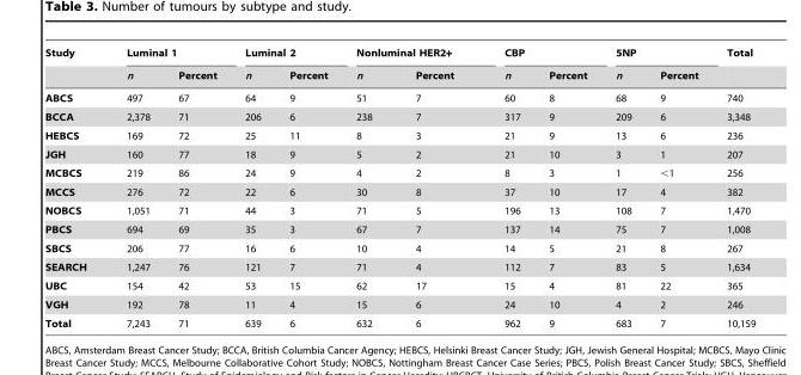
<table><thead><tr><td rowspan="2">Study</td><td colspan="2">Luminal 1</td><td colspan="2">Luminal 2</td><td colspan="2">Nonluminal HER2+</td><td colspan="2">CBP</td><td colspan="2">5NP</td><td rowspan="2">Total</td></tr><tr><td>n</td><td>Percent</td><td>n</td><td>Percent</td><td>n</td><td>Percent</td><td>n</td><td>Percent</td><td>n</td><td>Percent</td></tr></thead><tbody><tr><td>ABCS</td><td>497</td><td>67</td><td>64</td><td>9</td><td>51</td><td>7</td><td>60</td><td>8</td><td>68</td><td>9</td><td>740</td></tr><tr><td>BCCA</td><td>2,378</td><td>71</td><td>206</td><td>6</td><td>238</td><td>7</td><td>317</td><td>9</td><td>209</td><td>6</td><td>3,348</td></tr><tr><td>HEBCS</td><td>169</td><td>72</td><td>25</td><td>11</td><td>8</td><td>3</td><td>21</td><td>9</td><td>13</td><td>6</td><td>236</td></tr><tr><td>JGH</td><td>160</td><td>77</td><td>18</td><td>9</td><td>5</td><td>2</td><td>21</td><td>10</td><td>3</td><td>1</td><td>207</td></tr><tr><td>MCBCS</td><td>219</td><td>86</td><td>24</td><td>9</td><td>4</td><td>2</td><td>8</td><td>3</td><td>1</td><td>&lt;1</td><td>256</td></tr><tr><td>MCCS</td><td>276</td><td>72</td><td>22</td><td>6</td><td>30</td><td>8</td><td>37</td><td>10</td><td>17</td><td>4</td><td>382</td></tr><tr><td>NOBCS</td><td>1,051</td><td>71</td><td>44</td><td>3</td><td>71</td><td>5</td><td>196</td><td>13</td><td>108</td><td>7</td><td>1,470</td></tr><tr><td>PBCS</td><td>694</td><td>69</td><td>35</td><td>3</td><td>67</td><td>7</td><td>137</td><td>14</td><td>75</td><td>7</td><td>1,008</td></tr><tr><td>SBCS</td><td>206</td><td>77</td><td>16</td><td>6</td><td>10</td><td>4</td><td>14</td><td>5</td><td>21</td><td>8</td><td>267</td></tr><tr><td>SEARCH</td><td>1,247</td><td>76</td><td>121</td><td>7</td><td>71</td><td>4</td><td>112</td><td>7</td><td>83</td><td>5</td><td>1,634</td></tr><tr><td>UBC</td><td>154</td><td>42</td><td>53</td><td>15</td><td>62</td><td>17</td><td>15</td><td>4</td><td>81</td><td>22</td><td>365</td></tr><tr><td>VGH</td><td>192</td><td>78</td><td>11</td><td>4</td><td>15</td><td>6</td><td>24</td><td>10</td><td>4</td><td>2</td><td>246</td></tr><tr><td>Total</td><td>7,243</td><td>71</td><td>639</td><td>6</td><td>632</td><td>6</td><td>962</td><td>9</td><td>683</td><td>7</td><td>10,159</td></tr></tbody></table>